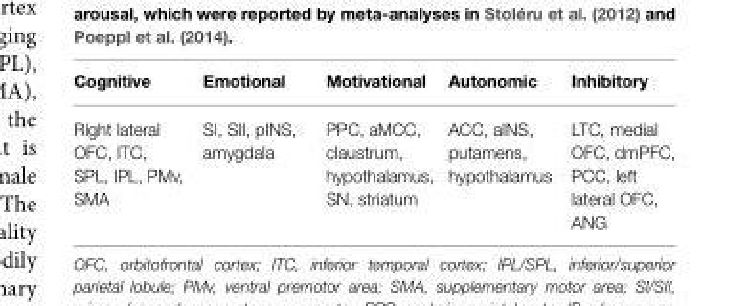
<table><thead><tr><td>Cognitive</td><td>Emotional</td><td>Motivational</td><td>Autonomic</td><td>Inhibitory</td></tr></thead><tbody><tr><td>Right lateral OFC, ITC, SPL, IPL, PMv, SMA</td><td>SI, SII, pINS, amygdala</td><td>PPC, aMCC, claustrum, hypothalamus, SN, striatum</td><td>ACC, aINS, putamens, hypothalamus</td><td>LTC, medial OFC, dmPFC, PCC, left lateral OFC, ANG</td></tr></tbody></table>